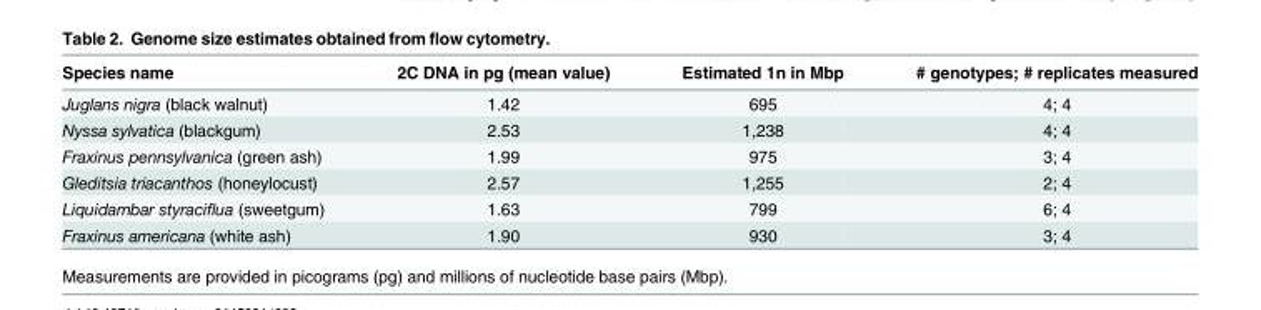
<table><thead><tr><td>Species name</td><td>2C DNA in pg (mean value)</td><td>Estimated 1n in Mbp</td><td># genotypes; # replicates measured</td></tr></thead><tbody><tr><td>Juglans nigra (black walnut)</td><td>1.42</td><td>695</td><td>4; 4</td></tr><tr><td>Nyssa sylvatica (blackgum)</td><td>2.53</td><td>1,238</td><td>4; 4</td></tr><tr><td>Fraxinus pennsylvanica (green ash)</td><td>1.99</td><td>975</td><td>3; 4</td></tr><tr><td>Gleditsia triacanthos (honeylocust)</td><td>2.57</td><td>1,255</td><td>2; 4</td></tr><tr><td>Liquidambar styraciflua (sweetgum)</td><td>1.63</td><td>799</td><td>6; 4</td></tr><tr><td>Fraxinus americana (white ash)</td><td>1.90</td><td>930</td><td>3; 4</td></tr></tbody></table>